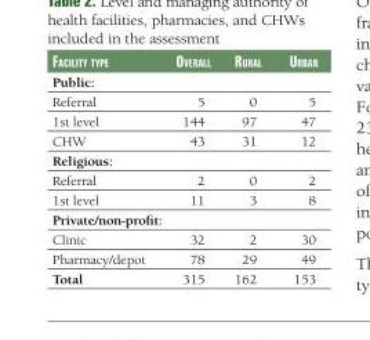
<table><thead><tr><td>FaCIlIty type</td><td>Overall</td><td>rural</td><td>urban</td></tr></thead><tbody><tr><td colspan="4">Public:</td></tr><tr><td>Referral</td><td>5</td><td>0</td><td>5</td></tr><tr><td>1st level</td><td>144</td><td>97</td><td>47</td></tr><tr><td>CHW</td><td>43</td><td>31</td><td>12</td></tr><tr><td colspan="4">Religious:</td></tr><tr><td>Referral</td><td>2</td><td>0</td><td>2</td></tr><tr><td>1st level</td><td>11</td><td>3</td><td>8</td></tr><tr><td colspan="4">Private/non-profit:</td></tr><tr><td>Clinic</td><td>32</td><td>2</td><td>30</td></tr><tr><td>Pharmacy/depot</td><td>78</td><td>29</td><td>49</td></tr><tr><td>Total</td><td>315</td><td>162</td><td>153</td></tr></tbody></table>